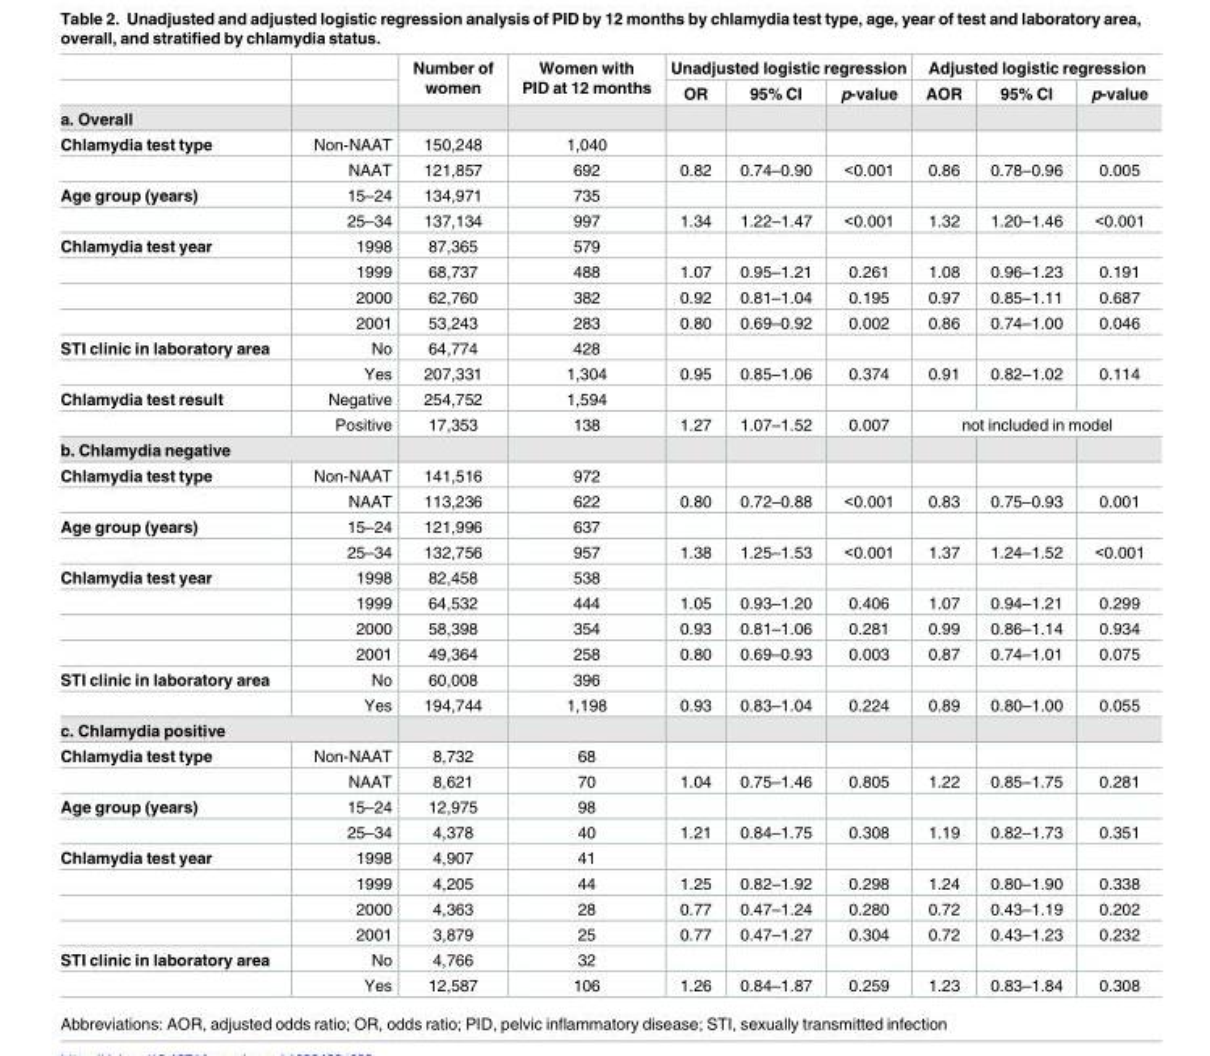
<table><thead><tr><td rowspan="2"></td><td rowspan="2"></td><td rowspan="2">Number of women</td><td rowspan="2">Women with PID at 12 months</td><td colspan="3">Unadjusted logistic regression</td><td colspan="3">Adjusted logistic regression</td></tr><tr><td>OR</td><td>95% CI</td><td>p-value</td><td>AOR</td><td>95% CI</td><td>p-value</td></tr></thead><tbody><tr><td colspan="10">a. Overall</td></tr><tr><td rowspan="2">Chlamydia test type</td><td>Non-NAAT</td><td>150,248</td><td>1,040</td><td></td><td></td><td></td><td></td><td></td><td></td></tr><tr><td>NAAT</td><td>121,857</td><td>692</td><td>0.82</td><td>0.74–0.90</td><td>&lt;0.001</td><td>0.86</td><td>0.78–0.96</td><td>0.005</td></tr><tr><td rowspan="2">Age group (years)</td><td>15–24</td><td>134,971</td><td>735</td><td></td><td></td><td></td><td></td><td></td><td></td></tr><tr><td>25–34</td><td>137,134</td><td>997</td><td>1.34</td><td>1.22–1.47</td><td>&lt;0.001</td><td>1.32</td><td>1.20–1.46</td><td>&lt;0.001</td></tr><tr><td rowspan="4">Chlamydia test year</td><td>1998</td><td>87,365</td><td>579</td><td></td><td></td><td></td><td></td><td></td><td></td></tr><tr><td>1999</td><td>68,737</td><td>488</td><td>1.07</td><td>0.95–1.21</td><td>0.261</td><td>1.08</td><td>0.96–1.23</td><td>0.191</td></tr><tr><td>2000</td><td>62,760</td><td>382</td><td>0.92</td><td>0.81–1.04</td><td>0.195</td><td>0.97</td><td>0.85–1.11</td><td>0.687</td></tr><tr><td>2001</td><td>53,243</td><td>283</td><td>0.80</td><td>0.69–0.92</td><td>0.002</td><td>0.86</td><td>0.74–1.00</td><td>0.046</td></tr><tr><td rowspan="2">STI clinic in laboratory area</td><td>No</td><td>64,774</td><td>428</td><td></td><td></td><td></td><td></td><td></td><td></td></tr><tr><td>Yes</td><td>207,331</td><td>1,304</td><td>0.95</td><td>0.85–1.06</td><td>0.374</td><td>0.91</td><td>0.82–1.02</td><td>0.114</td></tr><tr><td rowspan="2">Chlamydia test result</td><td>Negative</td><td>254,752</td><td>1,594</td><td></td><td></td><td></td><td></td><td></td><td></td></tr><tr><td>Positive</td><td>17,353</td><td>138</td><td>1.27</td><td>1.07–1.52</td><td>0.007</td><td colspan="3">not included in model</td></tr><tr><td colspan="10">b. Chlamydia negative</td></tr><tr><td rowspan="2">Chlamydia test type</td><td>Non-NAAT</td><td>141,516</td><td>972</td><td></td><td></td><td></td><td></td><td></td><td></td></tr><tr><td>NAAT</td><td>113,236</td><td>622</td><td>0.80</td><td>0.72–0.88</td><td>&lt;0.001</td><td>0.83</td><td>0.75–0.93</td><td>0.001</td></tr><tr><td rowspan="2">Age group (years)</td><td>15–24</td><td>121,996</td><td>637</td><td></td><td></td><td></td><td></td><td></td><td></td></tr><tr><td>25–34</td><td>132,756</td><td>957</td><td>1.38</td><td>1.25–1.53</td><td>&lt;0.001</td><td>1.37</td><td>1.24–1.52</td><td>&lt;0.001</td></tr><tr><td rowspan="4">Chlamydia test year</td><td>1998</td><td>82,458</td><td>538</td><td></td><td></td><td></td><td></td><td></td><td></td></tr><tr><td>1999</td><td>64,532</td><td>444</td><td>1.05</td><td>0.93–1.20</td><td>0.406</td><td>1.07</td><td>0.94–1.21</td><td>0.299</td></tr><tr><td>2000</td><td>58,398</td><td>354</td><td>0.93</td><td>0.81–1.06</td><td>0.281</td><td>0.99</td><td>0.86–1.14</td><td>0.934</td></tr><tr><td>2001</td><td>49,364</td><td>258</td><td>0.80</td><td>0.69–0.93</td><td>0.003</td><td>0.87</td><td>0.74–1.01</td><td>0.075</td></tr><tr><td rowspan="2">STI clinic in laboratory area</td><td>No</td><td>60,008</td><td>396</td><td></td><td></td><td></td><td></td><td></td><td></td></tr><tr><td>Yes</td><td>194,744</td><td>1,198</td><td>0.93</td><td>0.83–1.04</td><td>0.224</td><td>0.89</td><td>0.80–1.00</td><td>0.055</td></tr><tr><td colspan="10">c. Chlamydia positive</td></tr><tr><td rowspan="2">Chlamydia test type</td><td>Non-NAAT</td><td>8,732</td><td>68</td><td></td><td></td><td></td><td></td><td></td><td></td></tr><tr><td>NAAT</td><td>8,621</td><td>70</td><td>1.04</td><td>0.75–1.46</td><td>0.805</td><td>1.22</td><td>0.85–1.75</td><td>0.281</td></tr><tr><td rowspan="2">Age group (years)</td><td>15–24</td><td>12,975</td><td>98</td><td></td><td></td><td></td><td></td><td></td><td></td></tr><tr><td>25–34</td><td>4,378</td><td>40</td><td>1.21</td><td>0.84–1.75</td><td>0.308</td><td>1.19</td><td>0.82–1.73</td><td>0.351</td></tr><tr><td rowspan="4">Chlamydia test year</td><td>1998</td><td>4,907</td><td>41</td><td></td><td></td><td></td><td></td><td></td><td></td></tr><tr><td>1999</td><td>4,205</td><td>44</td><td>1.25</td><td>0.82–1.92</td><td>0.298</td><td>1.24</td><td>0.80–1.90</td><td>0.338</td></tr><tr><td>2000</td><td>4,363</td><td>28</td><td>0.77</td><td>0.47–1.24</td><td>0.280</td><td>0.72</td><td>0.43–1.19</td><td>0.202</td></tr><tr><td>2001</td><td>3,879</td><td>25</td><td>0.77</td><td>0.47–1.27</td><td>0.304</td><td>0.72</td><td>0.43–1.23</td><td>0.232</td></tr><tr><td rowspan="2">STI clinic in laboratory area</td><td>No</td><td>4,766</td><td>32</td><td></td><td></td><td></td><td></td><td></td><td></td></tr><tr><td>Yes</td><td>12,587</td><td>106</td><td>1.26</td><td>0.84–1.87</td><td>0.259</td><td>1.23</td><td>0.83–1.84</td><td>0.308</td></tr></tbody></table>